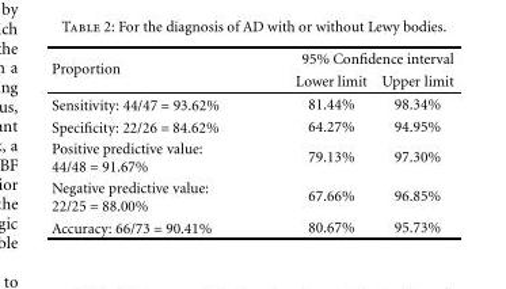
<table><thead><tr><td rowspan="2">Proportion</td><td colspan="2">95% Confidence interval</td></tr><tr><td>Lower limit</td><td>Upper limit</td></tr></thead><tbody><tr><td>Sensitivity: 44/47 = 93.62%</td><td>81.44%</td><td>98.34%</td></tr><tr><td>Specificity: 22/26 = 84.62%</td><td>64.27%</td><td>94.95%</td></tr><tr><td>Positive predictive value: 44/48 = 91.67%</td><td>79.13%</td><td>97.30%</td></tr><tr><td>Negative predictive value: 22/25 = 88.00%</td><td>67.66%</td><td>96.85%</td></tr><tr><td>Accuracy: 66/73 = 90.41%</td><td>80.67%</td><td>95.73%</td></tr></tbody></table>